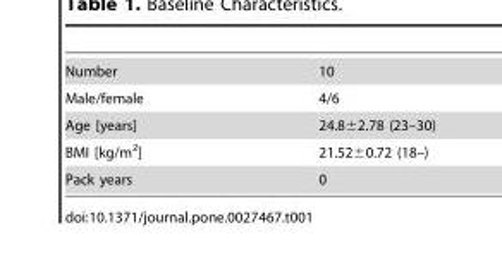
<table><tbody><tr><td>Number</td><td>10</td></tr><tr><td>Male/female</td><td>4/6</td></tr><tr><td>Age [years]</td><td>24.8±2.78 (23–30)</td></tr><tr><td>BMI [kg/m<sup>2</sup>]</td><td>21.52±0.72 (18–)</td></tr><tr><td>Pack years</td><td>0</td></tr></tbody></table>